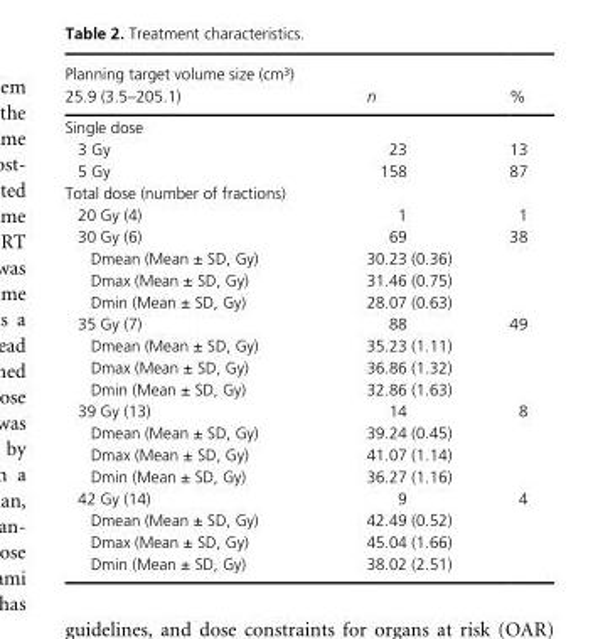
<table><thead><tr><td>Planning target volume size (cm³) 25.9 (3.5–205.1)</td><td>n</td><td>%</td></tr></thead><tbody><tr><td colspan="3">Single dose</td></tr><tr><td>3 Gy</td><td>23</td><td>13</td></tr><tr><td>5 Gy</td><td>158</td><td>87</td></tr><tr><td colspan="3">Total dose (number of fractions)</td></tr><tr><td>20 Gy (4)</td><td>1</td><td>1</td></tr><tr><td>30 Gy (6)</td><td>69</td><td>38</td></tr><tr><td>Dmean (Mean ± SD, Gy)</td><td>30.23 (0.36)</td><td></td></tr><tr><td>Dmax (Mean ± SD, Gy)</td><td>31.46 (0.75)</td><td></td></tr><tr><td>Dmin (Mean ± SD, Gy)</td><td>28.07 (0.63)</td><td></td></tr><tr><td>35 Gy (7)</td><td>88</td><td>49</td></tr><tr><td>Dmean (Mean ± SD, Gy)</td><td>35.23 (1.11)</td><td></td></tr><tr><td>Dmax (Mean ± SD, Gy)</td><td>36.86 (1.32)</td><td></td></tr><tr><td>Dmin (Mean ± SD, Gy)</td><td>32.86 (1.63)</td><td></td></tr><tr><td>39 Gy (13)</td><td>14</td><td>8</td></tr><tr><td>Dmean (Mean ± SD, Gy)</td><td>39.24 (0.45)</td><td></td></tr><tr><td>Dmax (Mean ± SD, Gy)</td><td>41.07 (1.14)</td><td></td></tr><tr><td>Dmin (Mean ± SD, Gy)</td><td>36.27 (1.16)</td><td></td></tr><tr><td>42 Gy (14)</td><td>9</td><td>4</td></tr><tr><td>Dmean (Mean ± SD, Gy)</td><td>42.49 (0.52)</td><td></td></tr><tr><td>Dmax (Mean ± SD, Gy)</td><td>45.04 (1.66)</td><td></td></tr><tr><td>Dmin (Mean ± SD, Gy)</td><td>38.02 (2.51)</td><td></td></tr></tbody></table>